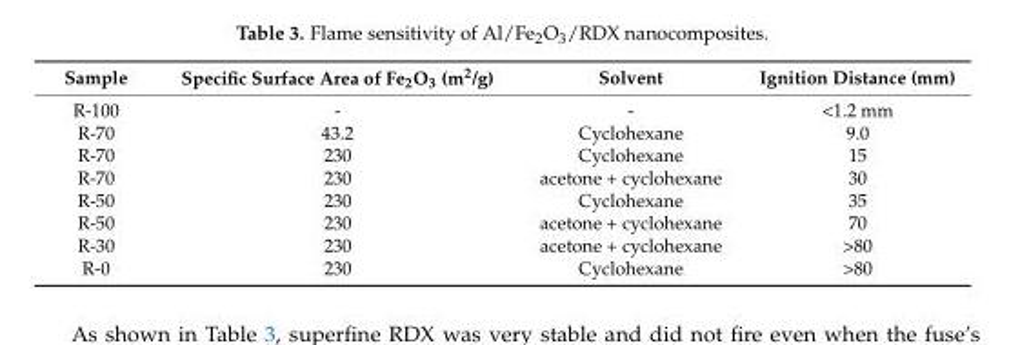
<table><thead><tr><td>Sample</td><td>Specific Surface Area of Fe<sub>2</sub>O<sub>3</sub> (m<sup>2</sup>/g)</td><td>Solvent</td><td>Ignition Distance (mm)</td></tr></thead><tbody><tr><td>R-100</td><td>-</td><td>-</td><td>&lt;1.2 mm</td></tr><tr><td>R-70</td><td>43.2</td><td>Cyclohexane</td><td>9.0</td></tr><tr><td>R-70</td><td>230</td><td>Cyclohexane</td><td>15</td></tr><tr><td>R-70</td><td>230</td><td>acetone + cyclohexane</td><td>30</td></tr><tr><td>R-50</td><td>230</td><td>Cyclohexane</td><td>35</td></tr><tr><td>R-50</td><td>230</td><td>acetone + cyclohexane</td><td>70</td></tr><tr><td>R-30</td><td>230</td><td>acetone + cyclohexane</td><td>&gt;80</td></tr><tr><td>R-0</td><td>230</td><td>Cyclohexane</td><td>&gt;80</td></tr></tbody></table>